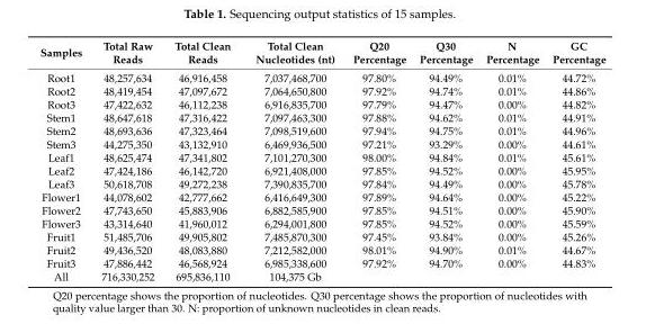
<table><thead><tr><td>Samples</td><td>Total Raw Reads</td><td>Total Clean Reads</td><td>Total Clean Nucleotides (nt)</td><td>Q20 Percentage</td><td>Q30 Percentage</td><td>N Percentage</td><td>GC Percentage</td></tr></thead><tbody><tr><td>Root1</td><td>48,257,634</td><td>46,916,458</td><td>7,037,468,700</td><td>97.80%</td><td>94.49%</td><td>0.01%</td><td>44.72%</td></tr><tr><td>Root2</td><td>48,419,454</td><td>47,097,672</td><td>7,064,650,800</td><td>97.92%</td><td>94.74%</td><td>0.01%</td><td>44.86%</td></tr><tr><td>Root3</td><td>47,422,632</td><td>46,112,238</td><td>6,916,835,700</td><td>97.79%</td><td>94.47%</td><td>0.00%</td><td>44.82%</td></tr><tr><td>Stem1</td><td>48,647,618</td><td>47,316,422</td><td>7,097,463,300</td><td>97.88%</td><td>94.62%</td><td>0.01%</td><td>44.91%</td></tr><tr><td>Stem2</td><td>48,693,636</td><td>47,323,464</td><td>7,098,519,600</td><td>97.94%</td><td>94.75%</td><td>0.01%</td><td>44.96%</td></tr><tr><td>Stem3</td><td>44,275,350</td><td>43,132,910</td><td>6,469,936,500</td><td>97.21%</td><td>93.29%</td><td>0.00%</td><td>44.61%</td></tr><tr><td>Leaf1</td><td>48,625,474</td><td>47,341,802</td><td>7,101,270,300</td><td>98.00%</td><td>94.84%</td><td>0.01%</td><td>45.61%</td></tr><tr><td>Leaf2</td><td>47,424,186</td><td>46,142,720</td><td>6,921,408,000</td><td>97.85%</td><td>94.52%</td><td>0.00%</td><td>45.95%</td></tr><tr><td>Leaf3</td><td>50,618,708</td><td>49,272,238</td><td>7,390,835,700</td><td>97.84%</td><td>94.49%</td><td>0.00%</td><td>45.78%</td></tr><tr><td>Flower1</td><td>44,078,602</td><td>42,777,662</td><td>6,416,649,300</td><td>97.89%</td><td>94.64%</td><td>0.00%</td><td>45.22%</td></tr><tr><td>Flower2</td><td>47,743,650</td><td>45,883,906</td><td>6,882,585,900</td><td>97.85%</td><td>94.51%</td><td>0.00%</td><td>45.90%</td></tr><tr><td>Flower3</td><td>43,314,640</td><td>41,960,012</td><td>6,294,001,800</td><td>97.85%</td><td>94.52%</td><td>0.00%</td><td>45.59%</td></tr><tr><td>Fruit1</td><td>51,485,706</td><td>49,905,802</td><td>7,485,870,300</td><td>97.45%</td><td>93.84%</td><td>0.00%</td><td>45.26%</td></tr><tr><td>Fruit2</td><td>49,436,520</td><td>48,083,880</td><td>7,212,582,000</td><td>98.01%</td><td>94.90%</td><td>0.01%</td><td>44.67%</td></tr><tr><td>Fruit3</td><td>47,886,442</td><td>46,568,924</td><td>6,985,338,600</td><td>97.92%</td><td>94.70%</td><td>0.00%</td><td>44.83%</td></tr><tr><td>All</td><td>716,330,252</td><td>695,836,110</td><td>104,375 Gb</td><td></td><td></td><td></td><td></td></tr></tbody></table>